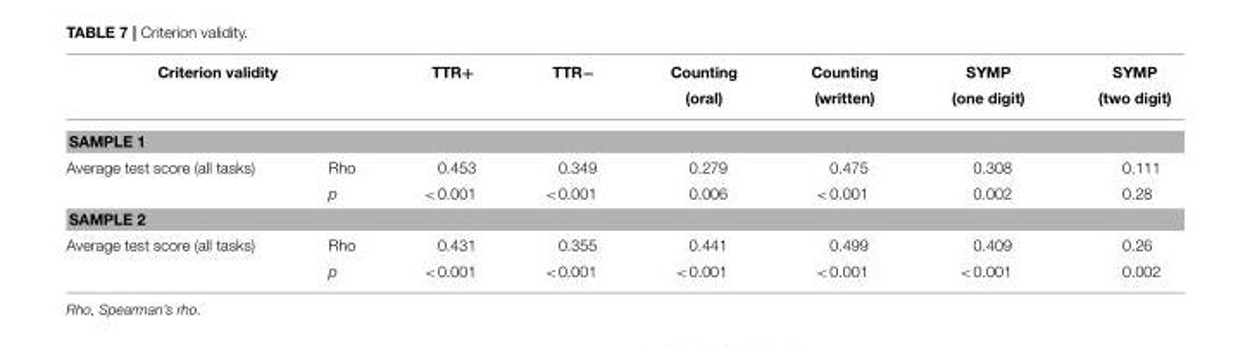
<table><thead><tr><td colspan="2">Criterion validity</td><td rowspan="2">TTR+</td><td rowspan="2">TTR−</td><td rowspan="2">Counting (oral)</td><td rowspan="2">Counting (written)</td><td rowspan="2">SYMP (one digit)</td><td rowspan="2">SYMP (two digit)</td></tr><tr><td></td><td></td></tr></thead><tbody><tr><td colspan="8">SAMPLE 1</td></tr><tr><td rowspan="2">Average test score (all tasks)</td><td>Rho</td><td>0.453</td><td>0.349</td><td>0.279</td><td>0.475</td><td>0.308</td><td>0.111</td></tr><tr><td>p</td><td>&lt;0.001</td><td>&lt;0.001</td><td>0.006</td><td>&lt;0.001</td><td>0.002</td><td>0.28</td></tr><tr><td colspan="8">SAMPLE 2</td></tr><tr><td rowspan="2">Average test score (all tasks)</td><td>Rho</td><td>0.431</td><td>0.355</td><td>0.441</td><td>0.499</td><td>0.409</td><td>0.26</td></tr><tr><td>p</td><td>&lt;0.001</td><td>&lt;0.001</td><td>&lt;0.001</td><td>&lt;0.001</td><td>&lt;0.001</td><td>0.002</td></tr></tbody></table>